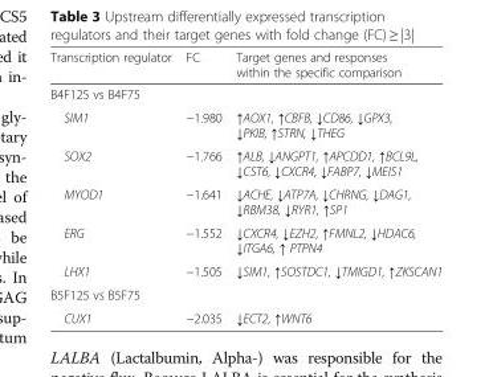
<table><thead><tr><td>Transcription regulator</td><td>FC</td><td>Target genes and responses within the specific comparison</td></tr></thead><tbody><tr><td colspan="3">B4F125 vs B4F75</td></tr><tr><td>SIM1</td><td>−1.980</td><td>↑AOX1, ↑CBFB, ↓CD86, ↓GPX3, ↓PKIB, ↑STRN, ↓THEG</td></tr><tr><td>SOX2</td><td>−1.766</td><td>↑ALB, ↓ANGPT1, ↑APCDD1, ↑BCL9L, ↓CST6, ↓CXCR4, ↓FABP7, ↓MEIS1</td></tr><tr><td>MYOD1</td><td>−1.641</td><td>↓ACHE, ↓ATP7A, ↓CHRNG, ↓DAG1, ↓RBM38, ↓RYR1, ↑SP1</td></tr><tr><td>ERG</td><td>−1.552</td><td>↓CXCR4, ↓EZH2, ↑FMNL2, ↓HDAC6, ↓ITGA6, ↑ PTPN4</td></tr><tr><td>LHX1</td><td>−1.505</td><td>↓SIM1, ↑SOSTDC1, ↓TMIGD1, ↑ZKSCAN1</td></tr><tr><td colspan="3">B5F125 vs B5F75</td></tr><tr><td>CUX1</td><td>−2.035</td><td>↓ECT2, ↑WNT6</td></tr></tbody></table>